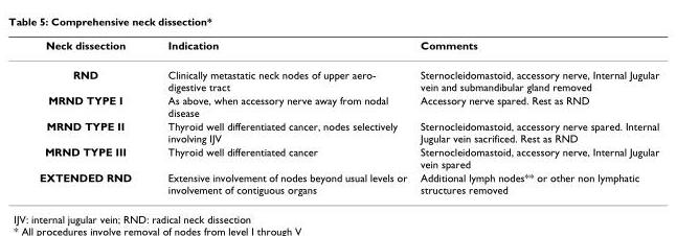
<table><thead><tr><td>Neck dissection</td><td>Indication</td><td>Comments</td></tr></thead><tbody><tr><td>RND</td><td>Clinically metastatic neck nodes of upper aero- digestive tract</td><td>Sternocleidomastoid, accessory nerve, Internal Jugular vein and submandibular gland removed</td></tr><tr><td>MRND TYPE I</td><td>As above, when accessory nerve away from nodal disease</td><td>Accessory nerve spared. Rest as RND</td></tr><tr><td>MRND TYPE II</td><td>Thyroid well differentiated cancer, nodes selectively involving IJV</td><td>Sternocleidomastoid, accessory nerve spared. Internal Jugular vein sacrificed. Rest as RND</td></tr><tr><td>MRND TYPE III</td><td>Thyroid well differentiated cancer</td><td>Sternocleidomastoid, accessory nerve, Internal Jugular vein spared</td></tr><tr><td>EXTENDED RND</td><td>Extensive involvement of nodes beyond usual levels or involvement of contiguous organs</td><td>Additional lymph nodes** or other non lymphatic structures removed</td></tr></tbody></table>